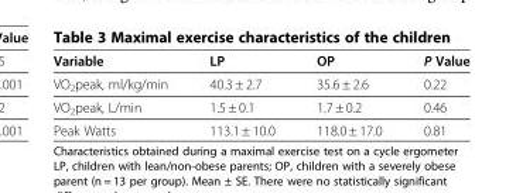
<table><thead><tr><td>Variable</td><td>LP</td><td>OP</td><td>P Value</td></tr></thead><tbody><tr><td>VO<sub>2</sub>peak, ml/kg/min</td><td>40.3 ± 2.7</td><td>35.6 ± 2.6</td><td>0.22</td></tr><tr><td>VO<sub>2</sub>peak, L/min</td><td>1.5 ± 0.1</td><td>1.7 ± 0.2</td><td>0.46</td></tr><tr><td>Peak Watts</td><td>113.1 ± 10.0</td><td>118.0 ± 17.0</td><td>0.81</td></tr></tbody></table>